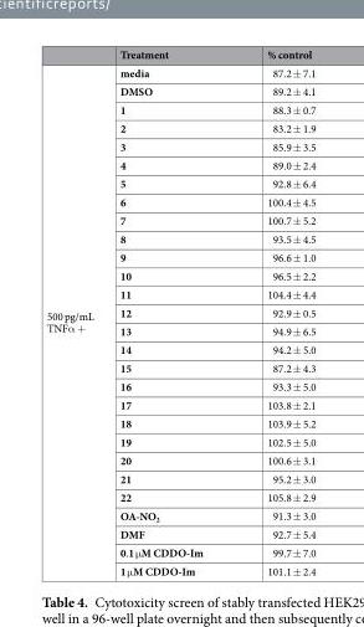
<table><thead><tr><td></td><td>Treatment</td><td>% control</td></tr></thead><tbody><tr><td rowspan="28">500 pg/mL TNFα +</td><td>media</td><td>87.2 ± 7.1</td></tr><tr><td>DMSO</td><td>89.2 ± 4.1</td></tr><tr><td>1</td><td>88.3 ± 0.7</td></tr><tr><td>2</td><td>83.2 ± 1.9</td></tr><tr><td>3</td><td>85.9 ± 3.5</td></tr><tr><td>4</td><td>89.0 ± 2.4</td></tr><tr><td>5</td><td>92.8 ± 6.4</td></tr><tr><td>6</td><td>100.4 ± 4.5</td></tr><tr><td>7</td><td>100.7 ± 5.2</td></tr><tr><td>8</td><td>93.5 ± 4.5</td></tr><tr><td>9</td><td>96.6 ± 1.0</td></tr><tr><td>10</td><td>96.5 ± 2.2</td></tr><tr><td>11</td><td>104.4 ± 4.4</td></tr><tr><td>12</td><td>92.9 ± 0.5</td></tr><tr><td>13</td><td>94.9 ± 6.5</td></tr><tr><td>14</td><td>94.2 ± 5.0</td></tr><tr><td>15</td><td>87.2 ± 4.3</td></tr><tr><td>16</td><td>93.3 ± 5.0</td></tr><tr><td>17</td><td>103.8 ± 2.1</td></tr><tr><td>18</td><td>103.9 ± 5.2</td></tr><tr><td>19</td><td>102.5 ± 5.0</td></tr><tr><td>20</td><td>100.6 ± 3.1</td></tr><tr><td>21</td><td>95.2 ± 3.0</td></tr><tr><td>22</td><td>105.8 ± 2.9</td></tr><tr><td>OA-NO<sub>2</sub></td><td>91.3 ± 3.0</td></tr><tr><td>DMF</td><td>92.7 ± 5.4</td></tr><tr><td>0.1 μM CDDO-Im</td><td>99.7 ± 7.0</td></tr><tr><td>1 μM CDDO-Im</td><td>101.1 ± 2.4</td></tr></tbody></table>